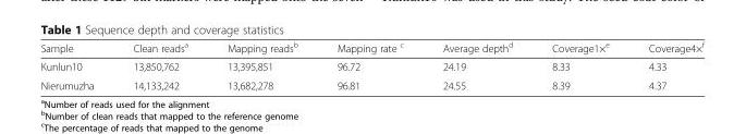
<table><thead><tr><td>Sample</td><td>Clean reads<sup>a</sup></td><td>Mapping reads<sup>b</sup></td><td>Mapping rate <sup>c</sup></td><td>Average depth<sup>d</sup></td><td>Coverage1×<sup>e</sup></td><td>Coverage4×<sup>f</sup></td></tr></thead><tbody><tr><td>Kunlun10</td><td>13,850,762</td><td>13,395,851</td><td>96.72</td><td>24.19</td><td>8.33</td><td>4.33</td></tr><tr><td>Nierumuzha</td><td>14,133,242</td><td>13,682,278</td><td>96.81</td><td>24.55</td><td>8.39</td><td>4.37</td></tr></tbody></table>